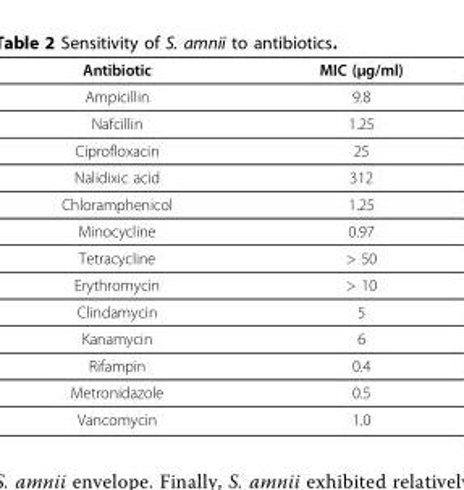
<table><thead><tr><td>Antibiotic</td><td>MIC (μg/ml)</td></tr></thead><tbody><tr><td>Ampicillin</td><td>9.8</td></tr><tr><td>Nafcillin</td><td>1.25</td></tr><tr><td>Ciprofloxacin</td><td>25</td></tr><tr><td>Nalidixic acid</td><td>312</td></tr><tr><td>Chloramphenicol</td><td>1.25</td></tr><tr><td>Minocycline</td><td>0.97</td></tr><tr><td>Tetracycline</td><td>&gt; 50</td></tr><tr><td>Erythromycin</td><td>&gt; 10</td></tr><tr><td>Clindamycin</td><td>5</td></tr><tr><td>Kanamycin</td><td>6</td></tr><tr><td>Rifampin</td><td>0.4</td></tr><tr><td>Metronidazole</td><td>0.5</td></tr><tr><td>Vancomycin</td><td>1.0</td></tr></tbody></table>